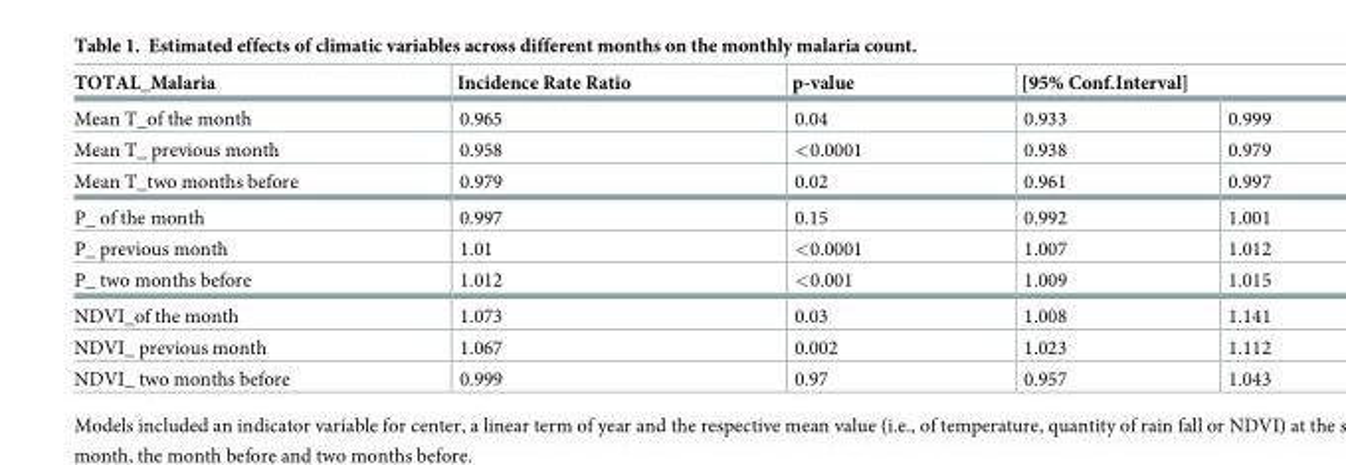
<table><thead><tr><td rowspan="2">TOTAL_Malaria Mean T_of the month</td><td rowspan="2">Incidence Rate Ratio 0.965</td><td rowspan="2">p-value 0.04</td><td colspan="2">[95% Conf.Interval]</td></tr><tr><td>0.933</td><td>0.999</td></tr></thead><tbody><tr><td>Mean T_ previous month</td><td>0.958</td><td>&lt;0.0001</td><td>0.938</td><td>0.979</td></tr><tr><td>Mean T_two months before</td><td>0.979</td><td>0.02</td><td>0.961</td><td>0.997</td></tr><tr><td>P_ of the month</td><td>0.997</td><td>0.15</td><td>0.992</td><td>1.001</td></tr><tr><td>P_ previous month</td><td>1.01</td><td>&lt;0.0001</td><td>1.007</td><td>1.012</td></tr><tr><td>P_ two months before</td><td>1.012</td><td>&lt;0.001</td><td>1.009</td><td>1.015</td></tr><tr><td>NDVI_of the month</td><td>1.073</td><td>0.03</td><td>1.008</td><td>1.141</td></tr><tr><td>NDVI_ previous month</td><td>1.067</td><td>0.002</td><td>1.023</td><td>1.112</td></tr><tr><td>NDVI_ two months before</td><td>0.999</td><td>0.97</td><td>0.957</td><td>1.043</td></tr></tbody></table>